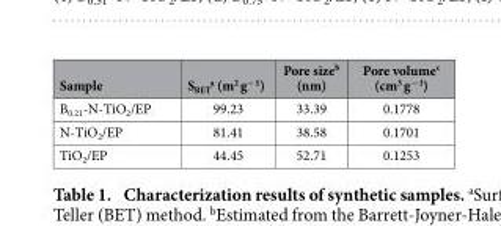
<table><thead><tr><td>Sample</td><td>S<sub>BET</sub> <sup>a</sup> (m<sup>2</sup> g<sup>−1</sup>)</td><td>Pore size<sup>b</sup> (nm)</td><td>Pore volume<sup>c</sup> (cm<sup>3</sup> g<sup>−1</sup>)</td></tr></thead><tbody><tr><td>B<sub>0.21</sub>-N-TiO<sub>2</sub>/EP</td><td>99.23</td><td>33.39</td><td>0.1778</td></tr><tr><td>N-TiO<sub>2</sub>/EP</td><td>81.41</td><td>38.58</td><td>0.1701</td></tr><tr><td>TiO<sub>2</sub>/EP</td><td>44.45</td><td>52.71</td><td>0.1253</td></tr></tbody></table>